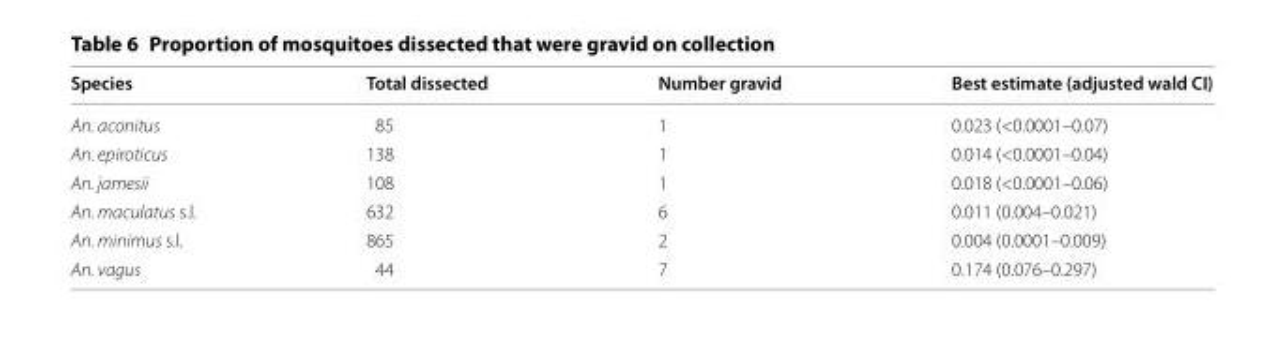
<table><thead><tr><td>Species</td><td>Total dissected</td><td>Number gravid</td><td>Best estimate (adjusted wald CI)</td></tr></thead><tbody><tr><td>An. aconitus</td><td>85</td><td>1</td><td>0.023 (&lt;0.0001–0.07)</td></tr><tr><td>An. epiroticus</td><td>138</td><td>1</td><td>0.014 (&lt;0.0001–0.04)</td></tr><tr><td>An. jamesii</td><td>108</td><td>1</td><td>0.018 (&lt;0.0001–0.06)</td></tr><tr><td>An. maculatus s.l.</td><td>632</td><td>6</td><td>0.011 (0.004–0.021)</td></tr><tr><td>An. minimus s.l.</td><td>865</td><td>2</td><td>0.004 (0.0001–0.009)</td></tr><tr><td>An. vagus</td><td>44</td><td>7</td><td>0.174 (0.076–0.297)</td></tr></tbody></table>